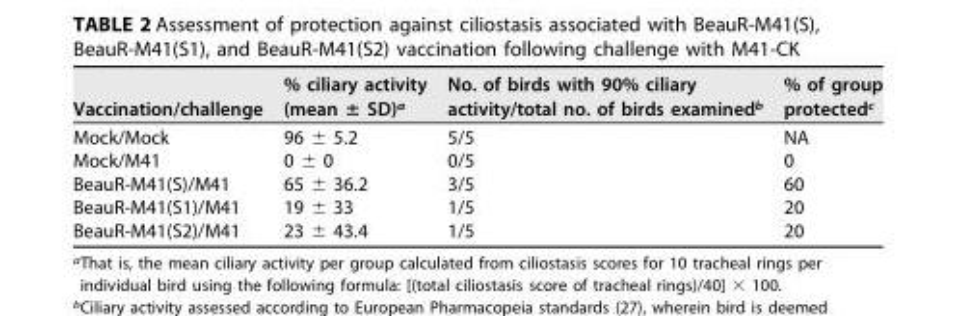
<table><thead><tr><td>Vaccination/challenge</td><td>% ciliary activity (mean ± SD)<sup>a</sup></td><td>No. of birds with 90% ciliary activity/total no. of birds examined<sup>b</sup></td><td>% of group protected<sup>c</sup></td></tr></thead><tbody><tr><td>Mock/Mock</td><td>96 ± 5.2</td><td>5/5</td><td>NA</td></tr><tr><td>Mock/M41</td><td>0 ± 0</td><td>0/5</td><td>0</td></tr><tr><td>BeauR-M41(S)/M41</td><td>65 ± 36.2</td><td>3/5</td><td>60</td></tr><tr><td>BeauR-M41(S1)/M41</td><td>19 ± 33</td><td>1/5</td><td>20</td></tr><tr><td>BeauR-M41(S2)/M41</td><td>23 ± 43.4</td><td>1/5</td><td>20</td></tr></tbody></table>